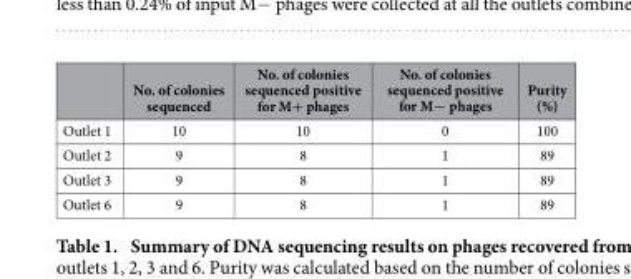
<table><thead><tr><td></td><td>No. of colonies sequenced</td><td>No. of colonies sequenced positive for M+ phages</td><td>No. of colonies sequenced positive for M− phages</td><td>Purity (%)</td></tr></thead><tbody><tr><td>Outlet 1</td><td>10</td><td>10</td><td>0</td><td>100</td></tr><tr><td>Outlet 2</td><td>9</td><td>8</td><td>1</td><td>89</td></tr><tr><td>Outlet 3</td><td>9</td><td>8</td><td>1</td><td>89</td></tr><tr><td>Outlet 6</td><td>9</td><td>8</td><td>1</td><td>89</td></tr></tbody></table>